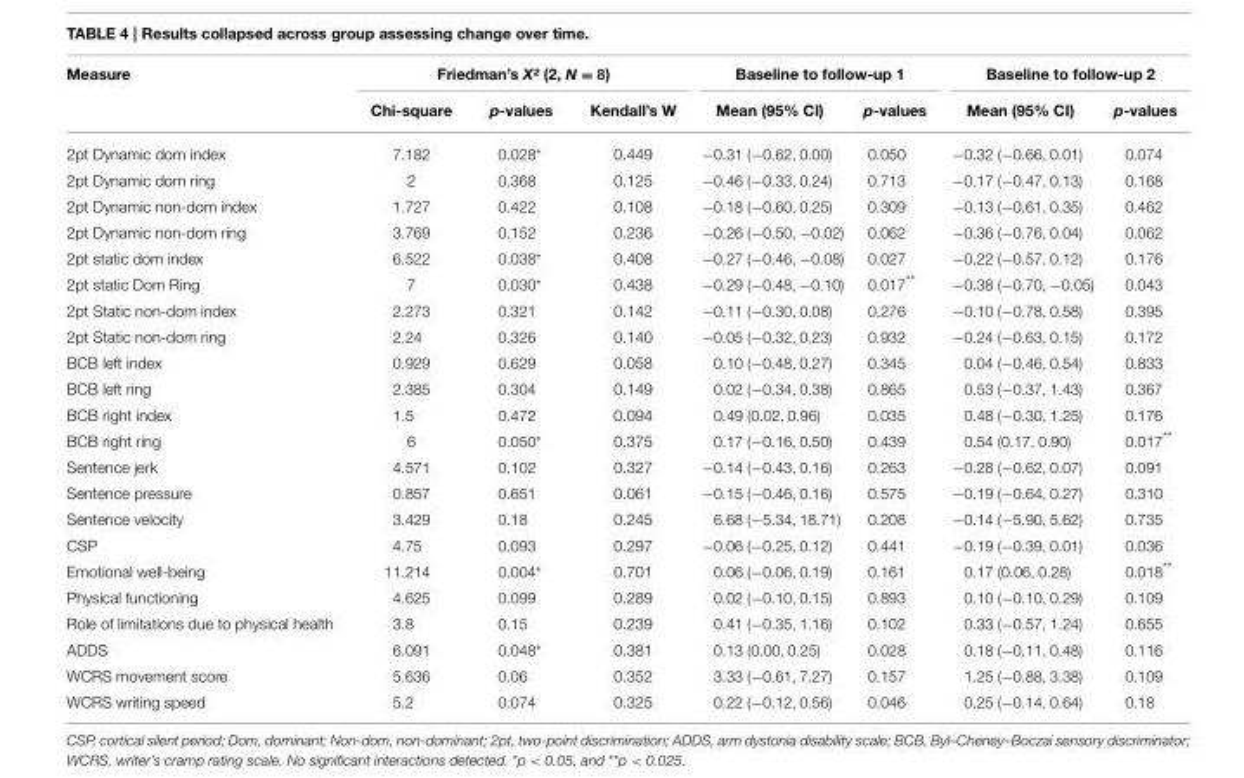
<table><thead><tr><td rowspan="2">Measure</td><td colspan="3">Friedman’s X² (2, N = 8)</td><td colspan="2">Baseline to follow-up 1</td><td colspan="2">Baseline to follow-up 2</td></tr><tr><td>Chi-square</td><td>p-values</td><td>Kendall’s W</td><td>Mean (95% CI)</td><td>p-values</td><td>Mean (95% CI)</td><td>p-values</td></tr></thead><tbody><tr><td>2pt Dynamic dom index</td><td>7.182</td><td>0.028*</td><td>0.449</td><td>−0.31 (−0.62, 0.00)</td><td>0.050</td><td>−0.32 (−0.66, 0.01)</td><td>0.074</td></tr><tr><td>2pt Dynamic dom ring</td><td>2</td><td>0.368</td><td>0.125</td><td>−0.46 (−0.33, 0.24)</td><td>0.713</td><td>−0.17 (−0.47, 0.13)</td><td>0.168</td></tr><tr><td>2pt Dynamic non-dom index</td><td>1.727</td><td>0.422</td><td>0.108</td><td>−0.18 (−0.60, 0.25)</td><td>0.309</td><td>−0.13 (−0.61, 0.35)</td><td>0.462</td></tr><tr><td>2pt Dynamic non-dom ring</td><td>3.769</td><td>0.152</td><td>0.236</td><td>−0.26 (−0.50, −0.02)</td><td>0.062</td><td>−0.36 (−0.76, 0.04)</td><td>0.062</td></tr><tr><td>2pt static dom index</td><td>6.522</td><td>0.038*</td><td>0.408</td><td>−0.27 (−0.46, −0.08)</td><td>0.027</td><td>−0.22 (−0.57, 0.12)</td><td>0.176</td></tr><tr><td>2pt static Dom Ring</td><td>7</td><td>0.030*</td><td>0.438</td><td>−0.29 (−0.48, −0.10)</td><td>0.017**</td><td>−0.38 (−0.70, −0.05)</td><td>0.043</td></tr><tr><td>2pt Static non-dom index</td><td>2.273</td><td>0.321</td><td>0.142</td><td>−0.11 (−0.30, 0.08)</td><td>0.276</td><td>−0.10 (−0.78, 0.58)</td><td>0.395</td></tr><tr><td>2pt Static non-dom ring</td><td>2.24</td><td>0.326</td><td>0.140</td><td>−0.05 (−0.32, 0.23)</td><td>0.932</td><td>−0.24 (−0.63, 0.15)</td><td>0.172</td></tr><tr><td>BCB left index</td><td>0.929</td><td>0.629</td><td>0.058</td><td>0.10 (−0.48, 0.27)</td><td>0.345</td><td>0.04 (−0.46, 0.54)</td><td>0.833</td></tr><tr><td>BCB left ring</td><td>2.385</td><td>0.304</td><td>0.149</td><td>0.02 (−0.34, 0.38)</td><td>0.865</td><td>0.53 (−0.37, 1.43)</td><td>0.367</td></tr><tr><td>BCB right index</td><td>1.5</td><td>0.472</td><td>0.094</td><td>0.49 (0.02, 0.96)</td><td>0.035</td><td>0.48 (−0.30, 1.25)</td><td>0.176</td></tr><tr><td>BCB right ring</td><td>6</td><td>0.050*</td><td>0.375</td><td>0.17 (−0.16, 0.50)</td><td>0.439</td><td>0.54 (0.17, 0.90)</td><td>0.017**</td></tr><tr><td>Sentence jerk</td><td>4.571</td><td>0.102</td><td>0.327</td><td>−0.14 (−0.43, 0.16)</td><td>0.263</td><td>−0.28 (−0.62, 0.07)</td><td>0.091</td></tr><tr><td>Sentence pressure</td><td>0.857</td><td>0.651</td><td>0.061</td><td>−0.15 (−0.46, 0.16)</td><td>0.575</td><td>−0.19 (−0.64, 0.27)</td><td>0.310</td></tr><tr><td>Sentence velocity</td><td>3.429</td><td>0.18</td><td>0.245</td><td>6.68 (−5.34, 18.71)</td><td>0.208</td><td>−0.14 (−5.90, 5.62)</td><td>0.735</td></tr><tr><td>CSP</td><td>4.75</td><td>0.093</td><td>0.297</td><td>−0.06 (−0.25, 0.12)</td><td>0.441</td><td>−0.19 (−0.39, 0.01)</td><td>0.036</td></tr><tr><td>Emotional well-being</td><td>11.214</td><td>0.004*</td><td>0.701</td><td>0.06 (−0.06, 0.19)</td><td>0.161</td><td>0.17 (0.06, 0.28)</td><td>0.018**</td></tr><tr><td>Physical functioning</td><td>4.625</td><td>0.099</td><td>0.289</td><td>0.02 (−0.10, 0.15)</td><td>0.893</td><td>0.10 (−0.10, 0.29)</td><td>0.109</td></tr><tr><td>Role of limitations due to physical health</td><td>3.8</td><td>0.15</td><td>0.239</td><td>0.41 (−0.35, 1.16)</td><td>0.102</td><td>0.33 (−0.57, 1.24)</td><td>0.655</td></tr><tr><td>ADDS</td><td>6.091</td><td>0.048*</td><td>0.381</td><td>0.13 (0.00, 0.25)</td><td>0.028</td><td>0.18 (−0.11, 0.48)</td><td>0.116</td></tr><tr><td>WCRS movement score</td><td>5.636</td><td>0.06</td><td>0.352</td><td>3.33 (−0.61, 7.27)</td><td>0.157</td><td>1.25 (−0.88, 3.38)</td><td>0.109</td></tr><tr><td>WCRS writing speed</td><td>5.2</td><td>0.074</td><td>0.325</td><td>0.22 (−0.12, 0.56)</td><td>0.046</td><td>0.25 (−0.14, 0.64)</td><td>0.18</td></tr></tbody></table>